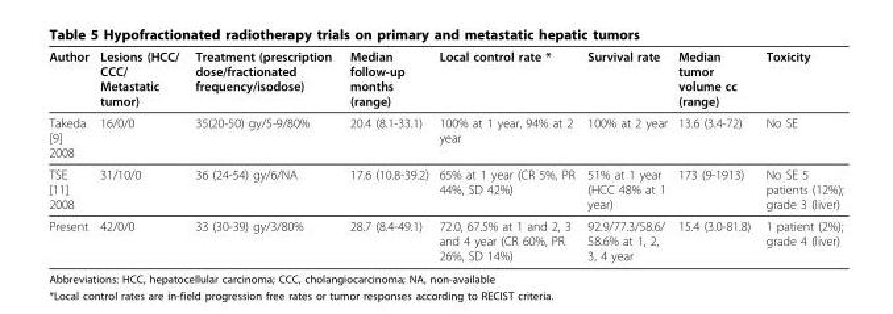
<table><thead><tr><td>Author</td><td>Lesions (HCC/ CCC/ Metastatic tumor)</td><td>Treatment (prescription dose/fractionated frequency/isodose)</td><td>Median follow-up months (range)</td><td>Local control rate *</td><td>Survival rate</td><td>Median tumor volume cc (range)</td><td>Toxicity</td></tr></thead><tbody><tr><td>Takeda [9] 2008</td><td>16/0/0</td><td>35(20-50) gy/5-9/80%</td><td>20.4 (8.1-33.1)</td><td>100% at 1 year, 94% at 2 year</td><td>100% at 2 year</td><td>13.6 (3.4-72)</td><td>No SE</td></tr><tr><td>TSE [11] 2008</td><td>31/10/0</td><td>36 (24-54) gy/6/NA</td><td>17.6 (10.8-39.2)</td><td>65% at 1 year (CR 5%, PR 44%, SD 42%)</td><td>51% at 1 year (HCC 48% at 1 year)</td><td>173 (9-1913)</td><td>No SE 5 patients (12%); grade 3 (liver)</td></tr><tr><td>Present</td><td>42/0/0</td><td>33 (30-39) gy/3/80%</td><td>28.7 (8.4-49.1)</td><td>72.0, 67.5% at 1 and 2, 3 and 4 year (CR 60%, PR 26%, SD 14%)</td><td>92.9/77.3/58.6/ 58.6% at 1, 2, 3, 4 year</td><td>15.4 (3.0-81.8)</td><td>1 patient (2%); grade 4 (liver)</td></tr></tbody></table>